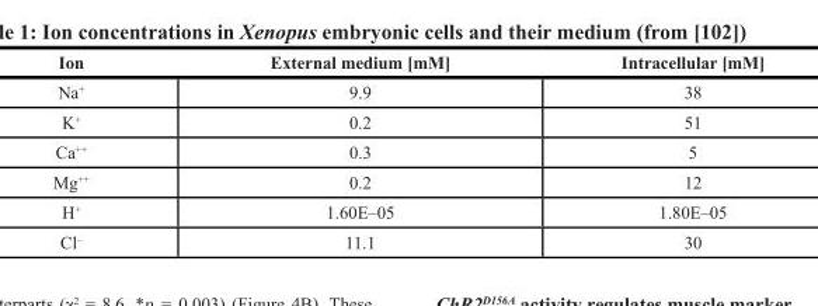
<table><thead><tr><td>Ion</td><td>External medium [mM]</td><td>Intracellular [mM]</td></tr></thead><tbody><tr><td>Na<sup>+</sup></td><td>9.9</td><td>38</td></tr><tr><td>K<sup>+</sup></td><td>0.2</td><td>51</td></tr><tr><td>Ca<sup>++</sup></td><td>0.3</td><td>5</td></tr><tr><td>Mg<sup>++</sup></td><td>0.2</td><td>12</td></tr><tr><td>H<sup>+</sup></td><td>1.60E–05</td><td>1.80E–05</td></tr><tr><td>Cl<sup>–</sup></td><td>11.1</td><td>30</td></tr></tbody></table>